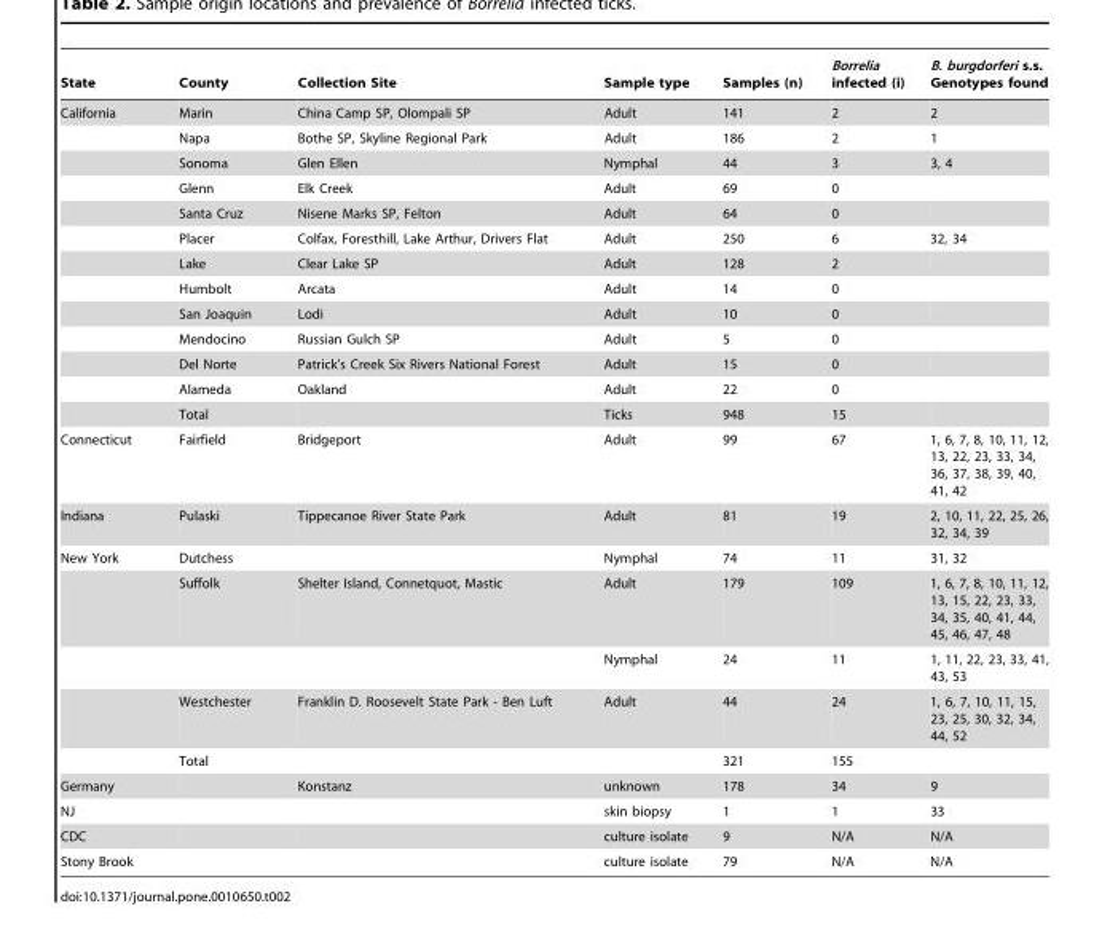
<table><thead><tr><td>State</td><td>County</td><td>Collection Site</td><td>Sample type</td><td>Samples (n)</td><td>Borrelia infected (i)</td><td>B. burgdorferi s.s. Genotypes found</td></tr></thead><tbody><tr><td rowspan="13">California</td><td>Marin</td><td>China Camp SP, Olompali SP</td><td>Adult</td><td>141</td><td>2</td><td>2</td></tr><tr><td>Napa</td><td>Bothe SP, Skyline Regional Park</td><td>Adult</td><td>186</td><td>2</td><td>1</td></tr><tr><td>Sonoma</td><td>Glen Ellen</td><td>Nymphal</td><td>44</td><td>3</td><td>3, 4</td></tr><tr><td>Glenn</td><td>Elk Creek</td><td>Adult</td><td>69</td><td>0</td><td></td></tr><tr><td>Santa Cruz</td><td>Nisene Marks SP, Felton</td><td>Adult</td><td>64</td><td>0</td><td></td></tr><tr><td>Placer</td><td>Colfax, Foresthill, Lake Arthur, Drivers Flat</td><td>Adult</td><td>250</td><td>6</td><td>32, 34</td></tr><tr><td>Lake</td><td>Clear Lake SP</td><td>Adult</td><td>128</td><td>2</td><td></td></tr><tr><td>Humbolt</td><td>Arcata</td><td>Adult</td><td>14</td><td>0</td><td></td></tr><tr><td>San Joaquin</td><td>Lodi</td><td>Adult</td><td>10</td><td>0</td><td></td></tr><tr><td>Mendocino</td><td>Russian Gulch SP</td><td>Adult</td><td>5</td><td>0</td><td></td></tr><tr><td>Del Norte</td><td>Patrick’s Creek Six Rivers National Forest</td><td>Adult</td><td>15</td><td>0</td><td></td></tr><tr><td>Alameda</td><td>Oakland</td><td>Adult</td><td>22</td><td>0</td><td></td></tr><tr><td>Total</td><td></td><td>Ticks</td><td>948</td><td>15</td><td></td></tr><tr><td>Connecticut</td><td>Fairfield</td><td>Bridgeport</td><td>Adult</td><td>99</td><td>67</td><td>1, 6, 7, 8, 10, 11, 12, 13, 22, 23, 33, 34, 36, 37, 38, 39, 40, 41, 42</td></tr><tr><td>Indiana</td><td>Pulaski</td><td>Tippecanoe River State Park</td><td>Adult</td><td>81</td><td>19</td><td>2, 10, 11, 22, 25, 26, 32, 34, 39</td></tr><tr><td rowspan="5">New York</td><td>Dutchess</td><td></td><td>Nymphal</td><td>74</td><td>11</td><td>31, 32</td></tr><tr><td>Suffolk</td><td>Shelter Island, Connetquot, Mastic</td><td>Adult</td><td>179</td><td>109</td><td>1, 6, 7, 8, 10, 11, 12, 13, 15, 22, 23, 33, 34, 35, 40, 41, 44, 45, 46, 47, 48</td></tr><tr><td></td><td></td><td>Nymphal</td><td>24</td><td>11</td><td>1, 11, 22, 23, 33, 41, 43, 53</td></tr><tr><td>Westchester</td><td>Franklin D. Roosevelt State Park - Ben Luft</td><td>Adult</td><td>44</td><td>24</td><td>1, 6, 7, 10, 11, 15, 23, 25, 30, 32, 34, 44, 52</td></tr><tr><td>Total</td><td></td><td></td><td>321</td><td>155</td><td></td></tr><tr><td>Germany</td><td></td><td>Konstanz</td><td>unknown</td><td>178</td><td>34</td><td>9</td></tr><tr><td>NJ</td><td></td><td></td><td>skin biopsy</td><td>1</td><td>1</td><td>33</td></tr><tr><td>CDC</td><td></td><td></td><td>culture isolate</td><td>9</td><td>N/A</td><td>N/A</td></tr><tr><td>Stony Brook</td><td></td><td></td><td>culture isolate</td><td>79</td><td>N/A</td><td>N/A</td></tr></tbody></table>